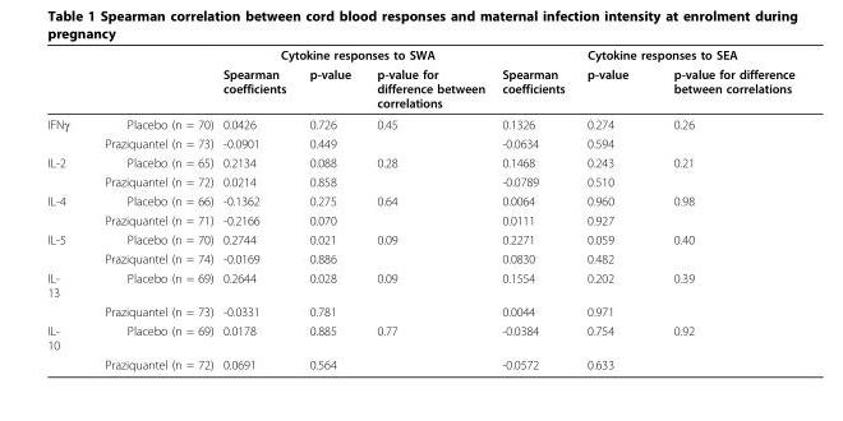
<table><thead><tr><td rowspan="2"></td><td rowspan="2"></td><td colspan="3">Cytokine responses to SWA</td><td colspan="3">Cytokine responses to SEA</td></tr><tr><td>Spearman coefficients</td><td>p-value</td><td>p-value for difference between correlations</td><td>Spearman coefficients</td><td>p-value</td><td>p-value for difference between correlations</td></tr></thead><tbody><tr><td rowspan="2">IFNγ</td><td>Placebo (n = 70)</td><td>0.0426</td><td>0.726</td><td>0.45</td><td>0.1326</td><td>0.274</td><td>0.26</td></tr><tr><td>Praziquantel (n = 73)</td><td>-0.0901</td><td>0.449</td><td></td><td>-0.0634</td><td>0.594</td><td></td></tr><tr><td rowspan="2">IL-2</td><td>Placebo (n = 65)</td><td>0.2134</td><td>0.088</td><td>0.28</td><td>0.1468</td><td>0.243</td><td>0.21</td></tr><tr><td>Praziquantel (n = 72)</td><td>0.0214</td><td>0.858</td><td></td><td>-0.0789</td><td>0.510</td><td></td></tr><tr><td rowspan="2">IL-4</td><td>Placebo (n = 66)</td><td>-0.1362</td><td>0.275</td><td>0.64</td><td>0.0064</td><td>0.960</td><td>0.98</td></tr><tr><td>Praziquantel (n = 71)</td><td>-0.2166</td><td>0.070</td><td></td><td>0.0111</td><td>0.927</td><td></td></tr><tr><td rowspan="2">IL-5</td><td>Placebo (n = 70)</td><td>0.2744</td><td>0.021</td><td>0.09</td><td>0.2271</td><td>0.059</td><td>0.40</td></tr><tr><td>Praziquantel (n = 74)</td><td>-0.0169</td><td>0.886</td><td></td><td>0.0830</td><td>0.482</td><td></td></tr><tr><td rowspan="2">IL- 13</td><td>Placebo (n = 69)</td><td>0.2644</td><td>0.028</td><td>0.09</td><td>0.1554</td><td>0.202</td><td>0.39</td></tr><tr><td>Praziquantel (n = 73)</td><td>-0.0331</td><td>0.781</td><td></td><td>0.0044</td><td>0.971</td><td></td></tr><tr><td rowspan="2">IL- 10</td><td>Placebo (n = 69)</td><td>0.0178</td><td>0.885</td><td>0.77</td><td>-0.0384</td><td>0.754</td><td>0.92</td></tr><tr><td>Praziquantel (n = 72)</td><td>0.0691</td><td>0.564</td><td></td><td>-0.0572</td><td>0.633</td><td></td></tr></tbody></table>